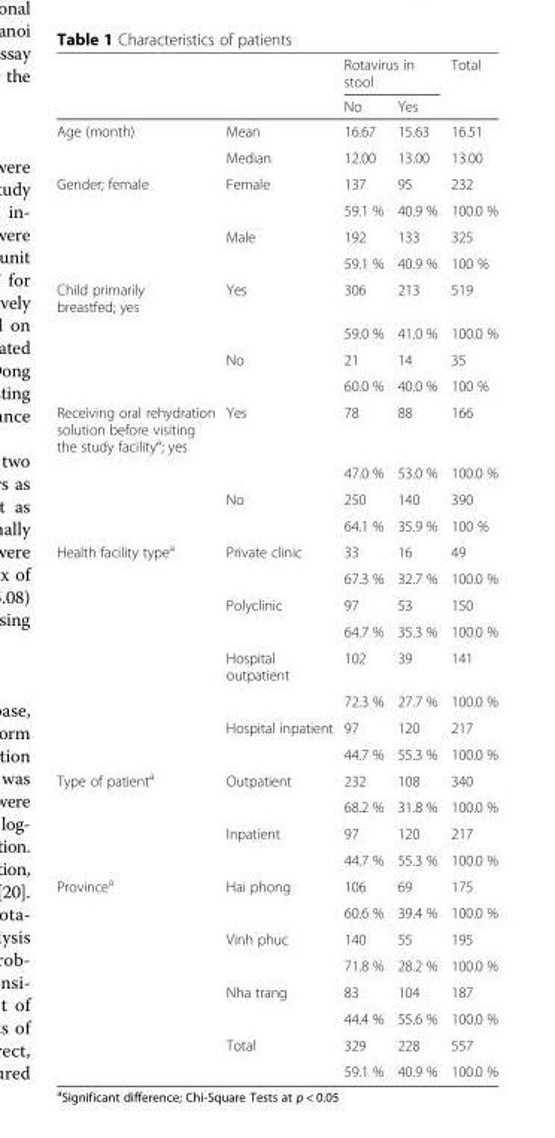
<table><thead><tr><td rowspan="2"></td><td rowspan="2"></td><td colspan="2">Rotavirus in stool</td><td rowspan="2">Total</td></tr><tr><td>No</td><td>Yes</td></tr></thead><tbody><tr><td rowspan="2">Age (month)</td><td>Mean</td><td>16.67</td><td>15.63</td><td>16.51</td></tr><tr><td>Median</td><td>12.00</td><td>13.00</td><td>13.00</td></tr><tr><td rowspan="4">Gender; female</td><td>Female</td><td>137</td><td>95</td><td>232</td></tr><tr><td></td><td>59.1 %</td><td>40.9 %</td><td>100.0 %</td></tr><tr><td>Male</td><td>192</td><td>133</td><td>325</td></tr><tr><td></td><td>59.1 %</td><td>40.9 %</td><td>100 %</td></tr><tr><td rowspan="4">Child primarily breastfed; yes</td><td>Yes</td><td>306</td><td>213</td><td>519</td></tr><tr><td></td><td>59.0 %</td><td>41.0 %</td><td>100.0 %</td></tr><tr><td>No</td><td>21</td><td>14</td><td>35</td></tr><tr><td></td><td>60.0 %</td><td>40.0 %</td><td>100 %</td></tr><tr><td rowspan="4">Receiving oral rehydration solution before visiting the study facility<sup>a</sup>; yes</td><td>Yes</td><td>78</td><td>88</td><td>166</td></tr><tr><td></td><td>47.0 %</td><td>53.0 %</td><td>100.0 %</td></tr><tr><td>No</td><td>250</td><td>140</td><td>390</td></tr><tr><td></td><td>64.1 %</td><td>35.9 %</td><td>100 %</td></tr><tr><td rowspan="8">Health facility type<sup>a</sup></td><td>Private clinic</td><td>33</td><td>16</td><td>49</td></tr><tr><td></td><td>67.3 %</td><td>32.7 %</td><td>100.0 %</td></tr><tr><td>Polyclinic</td><td>97</td><td>53</td><td>150</td></tr><tr><td></td><td>64.7 %</td><td>35.3 %</td><td>100.0 %</td></tr><tr><td>Hospital outpatient</td><td>102</td><td>39</td><td>141</td></tr><tr><td></td><td>72.3 %</td><td>27.7 %</td><td>100.0 %</td></tr><tr><td>Hospital inpatient</td><td>97</td><td>120</td><td>217</td></tr><tr><td></td><td>44.7 %</td><td>55.3 %</td><td>100.0 %</td></tr><tr><td rowspan="4">Type of patient<sup>a</sup></td><td>Outpatient</td><td>232</td><td>108</td><td>340</td></tr><tr><td></td><td>68.2 %</td><td>31.8 %</td><td>100.0 %</td></tr><tr><td>Inpatient</td><td>97</td><td>120</td><td>217</td></tr><tr><td></td><td>44.7 %</td><td>55.3 %</td><td>100.0 %</td></tr><tr><td rowspan="8">Province<sup>a</sup></td><td>Hai phong</td><td>106</td><td>69</td><td>175</td></tr><tr><td></td><td>60.6 %</td><td>39.4 %</td><td>100.0 %</td></tr><tr><td>Vinh phuc</td><td>140</td><td>55</td><td>195</td></tr><tr><td></td><td>71.8 %</td><td>28.2 %</td><td>100.0 %</td></tr><tr><td>Nha trang</td><td>83</td><td>104</td><td>187</td></tr><tr><td></td><td>44.4 %</td><td>55.6 %</td><td>100.0 %</td></tr><tr><td>Total</td><td>329</td><td>228</td><td>557</td></tr><tr><td></td><td>59.1 %</td><td>40.9 %</td><td>100.0 %</td></tr></tbody></table>